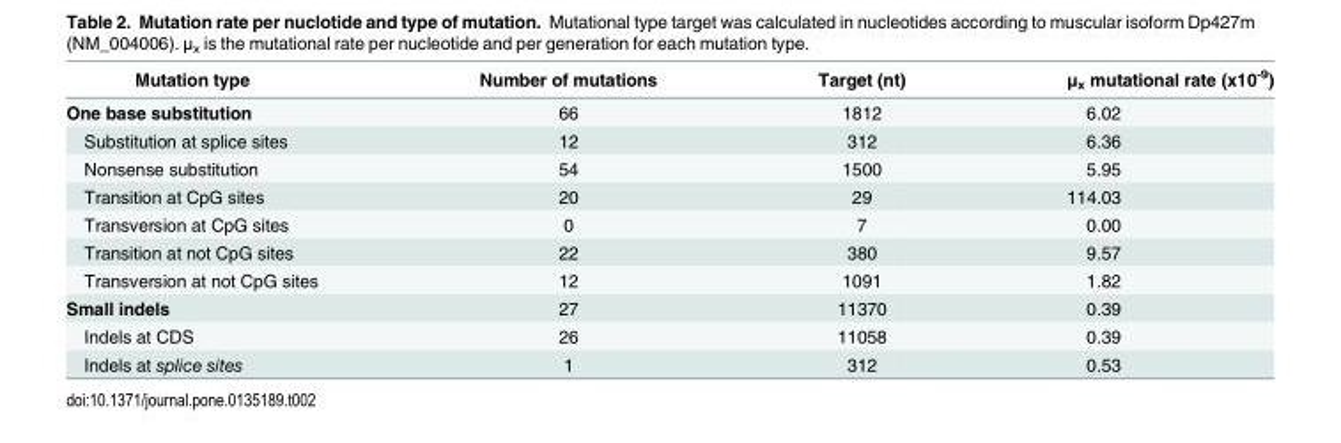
<table><thead><tr><td>Mutation type</td><td>Number of mutations</td><td>Target (nt)</td><td>μ<sub>x</sub> mutational rate (x10<sup>-9</sup>)</td></tr></thead><tbody><tr><td>One base substitution</td><td>66</td><td>1812</td><td>6.02</td></tr><tr><td>Substitution at splice sites</td><td>12</td><td>312</td><td>6.36</td></tr><tr><td>Nonsense substitution</td><td>54</td><td>1500</td><td>5.95</td></tr><tr><td>Transition at CpG sites</td><td>20</td><td>29</td><td>114.03</td></tr><tr><td>Transversion at CpG sites</td><td>0</td><td>7</td><td>0.00</td></tr><tr><td>Transition at not CpG sites</td><td>22</td><td>380</td><td>9.57</td></tr><tr><td>Transversion at not CpG sites</td><td>12</td><td>1091</td><td>1.82</td></tr><tr><td>Small indels</td><td>27</td><td>11370</td><td>0.39</td></tr><tr><td>Indels at CDS</td><td>26</td><td>11058</td><td>0.39</td></tr><tr><td>Indels at splice sites</td><td>1</td><td>312</td><td>0.53</td></tr></tbody></table>